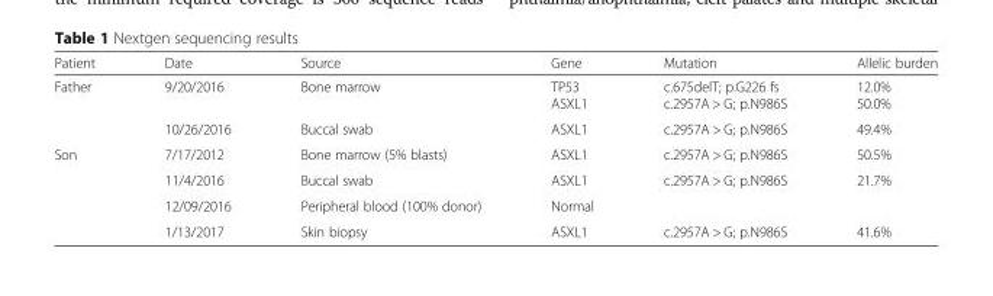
<table><thead><tr><td>Patient</td><td>Date</td><td>Source</td><td>Gene</td><td>Mutation</td><td>Allelic burden</td></tr></thead><tbody><tr><td rowspan="2">Father</td><td>9/20/2016</td><td>Bone marrow</td><td>TP53 ASXL1</td><td>c.675delT; p.G226 fs c.2957A &gt; G; p.N986S</td><td>12.0% 50.0%</td></tr><tr><td>10/26/2016</td><td>Buccal swab</td><td>ASXL1</td><td>c.2957A &gt; G; p.N986S</td><td>49.4%</td></tr><tr><td rowspan="4">Son</td><td>7/17/2012</td><td>Bone marrow (5% blasts)</td><td>ASXL1</td><td>c.2957A &gt; G; p.N986S</td><td>50.5%</td></tr><tr><td>11/4/2016</td><td>Buccal swab</td><td>ASXL1</td><td>c.2957A &gt; G; p.N986S</td><td>21.7%</td></tr><tr><td>12/09/2016</td><td>Peripheral blood (100% donor)</td><td>Normal</td><td></td><td></td></tr><tr><td>1/13/2017</td><td>Skin biopsy</td><td>ASXL1</td><td>c.2957A &gt; G; p.N986S</td><td>41.6%</td></tr></tbody></table>